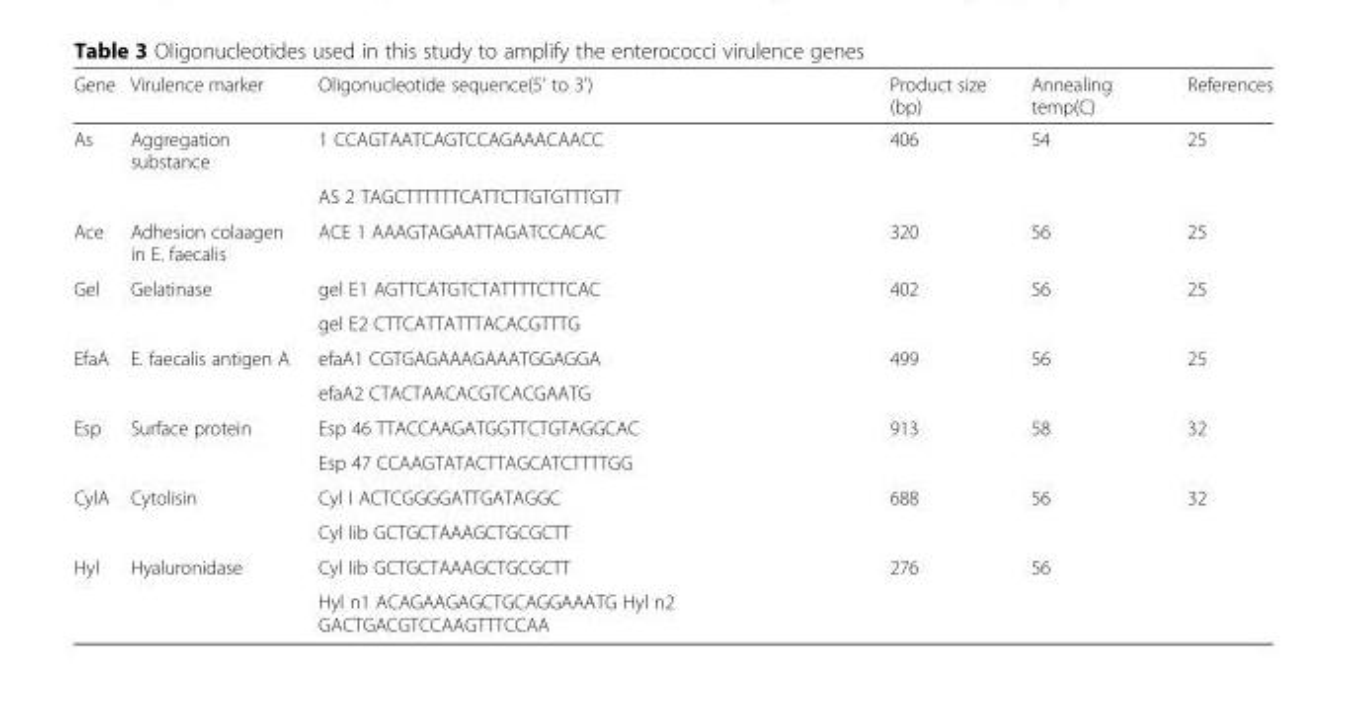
<table><thead><tr><td>Gene</td><td>Virulence marker</td><td>Oligonucleotide sequence(5&#x27; to 3&#x27;)</td><td>Product size (bp)</td><td>Annealing temp(C)</td><td>References</td></tr></thead><tbody><tr><td rowspan="2">As</td><td>Aggregation substance</td><td>1 CCAGTAATCAGTCCAGAAACAACC</td><td>406</td><td>54</td><td>25</td></tr><tr><td></td><td>AS 2 TAGCTTTTTTCATTCTTGTGTTTGTT</td><td></td><td></td><td></td></tr><tr><td>Ace</td><td>Adhesion colaagen in E. faecalis</td><td>ACE 1 AAAGTAGAATTAGATCCACAC</td><td>320</td><td>56</td><td>25</td></tr><tr><td rowspan="2">Gel</td><td>Gelatinase</td><td>gel E1 AGTTCATGTCTATTTTCTTCAC</td><td>402</td><td>56</td><td>25</td></tr><tr><td></td><td>gel E2 CTTCATTATTTACACGTTTG</td><td></td><td></td><td></td></tr><tr><td rowspan="2">EfaA</td><td>E. faecalis antigen A</td><td>efaA1 CGTGAGAAAGAAATGGAGGA</td><td>499</td><td>56</td><td>25</td></tr><tr><td></td><td>efaA2 CTACTAACACGTCACGAATG</td><td></td><td></td><td></td></tr><tr><td rowspan="2">Esp</td><td>Surface protein</td><td>Esp 46 TTACCAAGATGGTTCTGTAGGCAC</td><td>913</td><td>58</td><td>32</td></tr><tr><td></td><td>Esp 47 CCAAGTATACTTAGCATCTTTTGG</td><td></td><td></td><td></td></tr><tr><td rowspan="2">CylA</td><td>Cytolisin</td><td>Cyl I ACTCGGGGATTGATAGGC</td><td>688</td><td>56</td><td>32</td></tr><tr><td></td><td>Cyl Iib GCTGCTAAAGCTGCGCTT</td><td></td><td></td><td></td></tr><tr><td rowspan="2">Hyl</td><td>Hyaluronidase</td><td>Cyl Iib GCTGCTAAAGCTGCGCTT</td><td>276</td><td>56</td><td></td></tr><tr><td></td><td>Hyl n1 ACAGAAGAGCTGCAGGAAATG Hyl n2 GACTGACGTCCAAGTTTCCAA</td><td></td><td></td><td></td></tr></tbody></table>